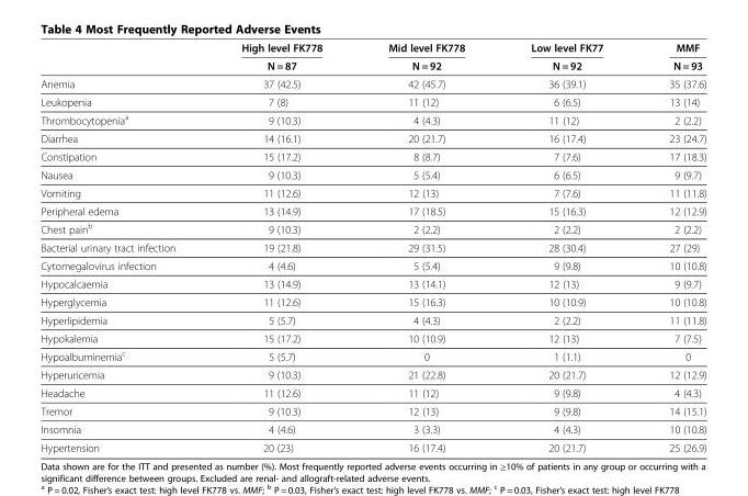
<table><thead><tr><td rowspan="2"></td><td rowspan="2">High level FK778 N = 87</td><td rowspan="2">Mid level FK778 N = 92</td><td rowspan="2">Low level FK77 N = 92</td><td rowspan="2">MMF N = 93</td></tr><tr></tr></thead><tbody><tr><td>Anemia</td><td>37 (42.5)</td><td>42 (45.7)</td><td>36 (39.1)</td><td>35 (37.6)</td></tr><tr><td>Leukopenia</td><td>7 (8)</td><td>11 (12)</td><td>6 (6.5)</td><td>13 (14)</td></tr><tr><td>Thrombocytopenia<sup>a</sup></td><td>9 (10.3)</td><td>4 (4.3)</td><td>11 (12)</td><td>2 (2.2)</td></tr><tr><td>Diarrhea</td><td>14 (16.1)</td><td>20 (21.7)</td><td>16 (17.4)</td><td>23 (24.7)</td></tr><tr><td>Constipation</td><td>15 (17.2)</td><td>8 (8.7)</td><td>7 (7.6)</td><td>17 (18.3)</td></tr><tr><td>Nausea</td><td>9 (10.3)</td><td>5 (5.4)</td><td>6 (6.5)</td><td>9 (9.7)</td></tr><tr><td>Vomiting</td><td>11 (12.6)</td><td>12 (13)</td><td>7 (7.6)</td><td>11 (11.8)</td></tr><tr><td>Peripheral edema</td><td>13 (14.9)</td><td>17 (18.5)</td><td>15 (16.3)</td><td>12 (12.9)</td></tr><tr><td>Chest pain<sup>b</sup></td><td>9 (10.3)</td><td>2 (2.2)</td><td>2 (2.2)</td><td>2 (2.2)</td></tr><tr><td>Bacterial urinary tract infection</td><td>19 (21.8)</td><td>29 (31.5)</td><td>28 (30.4)</td><td>27 (29)</td></tr><tr><td>Cytomegalovirus infection</td><td>4 (4.6)</td><td>5 (5.4)</td><td>9 (9.8)</td><td>10 (10.8)</td></tr><tr><td>Hypocalcaemia</td><td>13 (14.9)</td><td>13 (14.1)</td><td>12 (13)</td><td>9 (9.7)</td></tr><tr><td>Hyperglycemia</td><td>11 (12.6)</td><td>15 (16.3)</td><td>10 (10.9)</td><td>10 (10.8)</td></tr><tr><td>Hyperlipidemia</td><td>5 (5.7)</td><td>4 (4.3)</td><td>2 (2.2)</td><td>11 (11.8)</td></tr><tr><td>Hypokalemia</td><td>15 (17.2)</td><td>10 (10.9)</td><td>12 (13)</td><td>7 (7.5)</td></tr><tr><td>Hypoalbuminemia<sup>c</sup></td><td>5 (5.7)</td><td>0</td><td>1 (1.1)</td><td>0</td></tr><tr><td>Hyperuricemia</td><td>9 (10.3)</td><td>21 (22.8)</td><td>20 (21.7)</td><td>12 (12.9)</td></tr><tr><td>Headache</td><td>11 (12.6)</td><td>11 (12)</td><td>9 (9.8)</td><td>4 (4.3)</td></tr><tr><td>Tremor</td><td>9 (10.3)</td><td>12 (13)</td><td>9 (9.8)</td><td>14 (15.1)</td></tr><tr><td>Insomnia</td><td>4 (4.6)</td><td>3 (3.3)</td><td>4 (4.3)</td><td>10 (10.8)</td></tr><tr><td>Hypertension</td><td>20 (23)</td><td>16 (17.4)</td><td>20 (21.7)</td><td>25 (26.9)</td></tr></tbody></table>